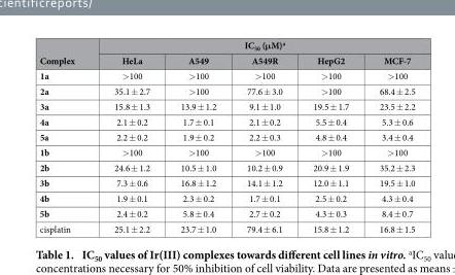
<table><thead><tr><td rowspan="2">Complex</td><td colspan="5">IC<sub>50</sub> (μM)<sup>a</sup></td></tr><tr><td>HeLa</td><td>A549</td><td>A549R</td><td>HepG2</td><td>MCF-7</td></tr></thead><tbody><tr><td>1a</td><td>&gt; 100</td><td>&gt; 100</td><td>&gt; 100</td><td>&gt; 100</td><td>&gt; 100</td></tr><tr><td>2a</td><td>35.1 ± 2.7</td><td>&gt; 100</td><td>77.6 ± 3.0</td><td>&gt; 100</td><td>68.4 ± 2.5</td></tr><tr><td>3a</td><td>15.8 ± 1.3</td><td>13.9 ± 1.2</td><td>9.1 ± 1.0</td><td>19.5 ± 1.7</td><td>23.5 ± 2.2</td></tr><tr><td>4a</td><td>2.1 ± 0.2</td><td>1.7 ± 0.1</td><td>2.1 ± 0.2</td><td>5.5 ± 0.4</td><td>5.3 ± 0.6</td></tr><tr><td>5a</td><td>2.2 ± 0.2</td><td>1.9 ± 0.2</td><td>2.2 ± 0.3</td><td>4.8 ± 0.4</td><td>3.4 ± 0.4</td></tr><tr><td>1b</td><td>&gt; 100</td><td>&gt; 100</td><td>&gt; 100</td><td>&gt; 100</td><td>&gt; 100</td></tr><tr><td>2b</td><td>24.6 ± 1.2</td><td>10.5 ± 1.0</td><td>10.2 ± 0.9</td><td>20.9 ± 1.9</td><td>35.2 ± 2.3</td></tr><tr><td>3b</td><td>7.3 ± 0.6</td><td>16.8 ± 1.2</td><td>14.1 ± 1.2</td><td>12.0 ± 1.1</td><td>19.5 ± 1.0</td></tr><tr><td>4b</td><td>1.9 ± 0.1</td><td>2.3 ± 0.2</td><td>1.7 ± 0.1</td><td>2.5 ± 0.2</td><td>4.3 ± 0.4</td></tr><tr><td>5b</td><td>2.4 ± 0.2</td><td>5.8 ± 0.4</td><td>2.7 ± 0.2</td><td>4.3 ± 0.3</td><td>8.4 ± 0.7</td></tr><tr><td>cisplatin</td><td>25.1 ± 2.2</td><td>23.7 ± 1.0</td><td>79.4 ± 6.1</td><td>15.8 ± 1.2</td><td>16.8 ± 1.5</td></tr></tbody></table>